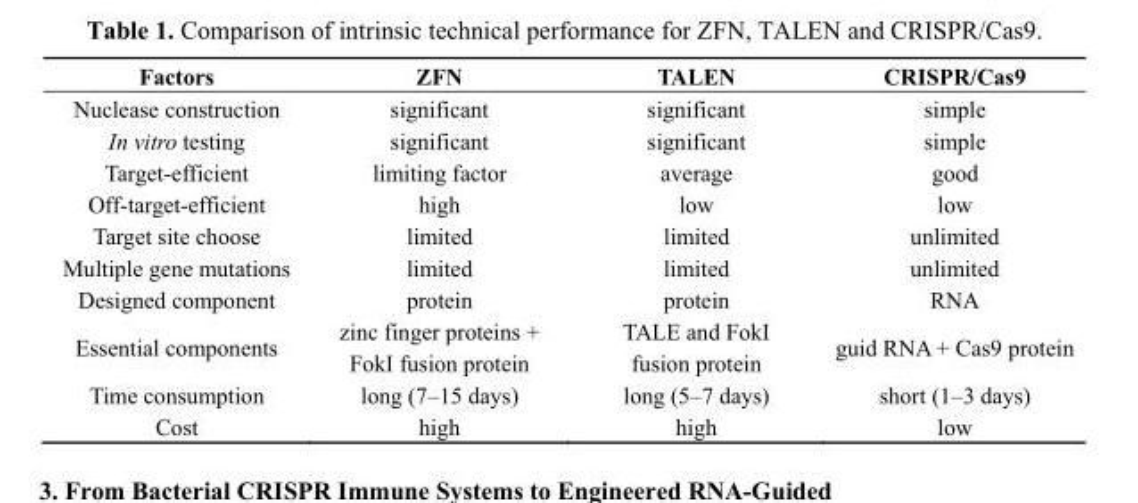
<table><thead><tr><td>Factors</td><td>ZFN</td><td>TALEN</td><td>CRISPR/Cas9</td></tr></thead><tbody><tr><td>Nuclease construction</td><td>significant</td><td>significant</td><td>simple</td></tr><tr><td>In vitro testing</td><td>significant</td><td>significant</td><td>simple</td></tr><tr><td>Target-efficient</td><td>limiting factor</td><td>average</td><td>good</td></tr><tr><td>Off-target-efficient</td><td>high</td><td>low</td><td>low</td></tr><tr><td>Target site choose</td><td>limited</td><td>limited</td><td>unlimited</td></tr><tr><td>Multiple gene mutations</td><td>limited</td><td>limited</td><td>unlimited</td></tr><tr><td>Designed component</td><td>protein</td><td>protein</td><td>RNA</td></tr><tr><td>Essential components</td><td>zinc finger proteins + FokI fusion protein</td><td>TALE and FokI fusion protein</td><td>guid RNA + Cas9 protein</td></tr><tr><td>Time consumption</td><td>long (7–15 days)</td><td>long (5–7 days)</td><td>short (1–3 days)</td></tr><tr><td>Cost</td><td>high</td><td>high</td><td>low</td></tr></tbody></table>